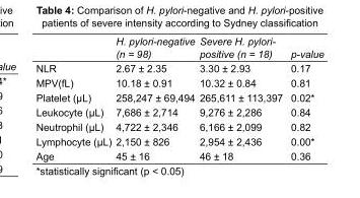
<table><thead><tr><td></td><td>H. pylori-negative (n = 98)</td><td>Severe H. pylori- positive (n = 18)</td><td>p-value</td></tr></thead><tbody><tr><td>NLR</td><td>2.67 ± 2.35</td><td>3.30 ± 2.93</td><td>0.17</td></tr><tr><td>MPV(fL)</td><td>10.18 ± 0.91</td><td>10.32 ± 0.84</td><td>0.81</td></tr><tr><td>Platelet (µL)</td><td>258,247 ± 69,494</td><td>265,611 ± 113,397</td><td>0.02*</td></tr><tr><td>Leukocyte (µL)</td><td>7,686 ± 2,714</td><td>9,276 ± 2,286</td><td>0.84</td></tr><tr><td>Neutrophil (µL)</td><td>4,722 ± 2,346</td><td>6,166 ± 2,099</td><td>0.82</td></tr><tr><td>Lymphocyte (µL)</td><td>2,150 ± 826</td><td>2,954 ± 2,436</td><td>0.00*</td></tr><tr><td>Age</td><td>45 ± 16</td><td>46 ± 18</td><td>0.36</td></tr></tbody></table>